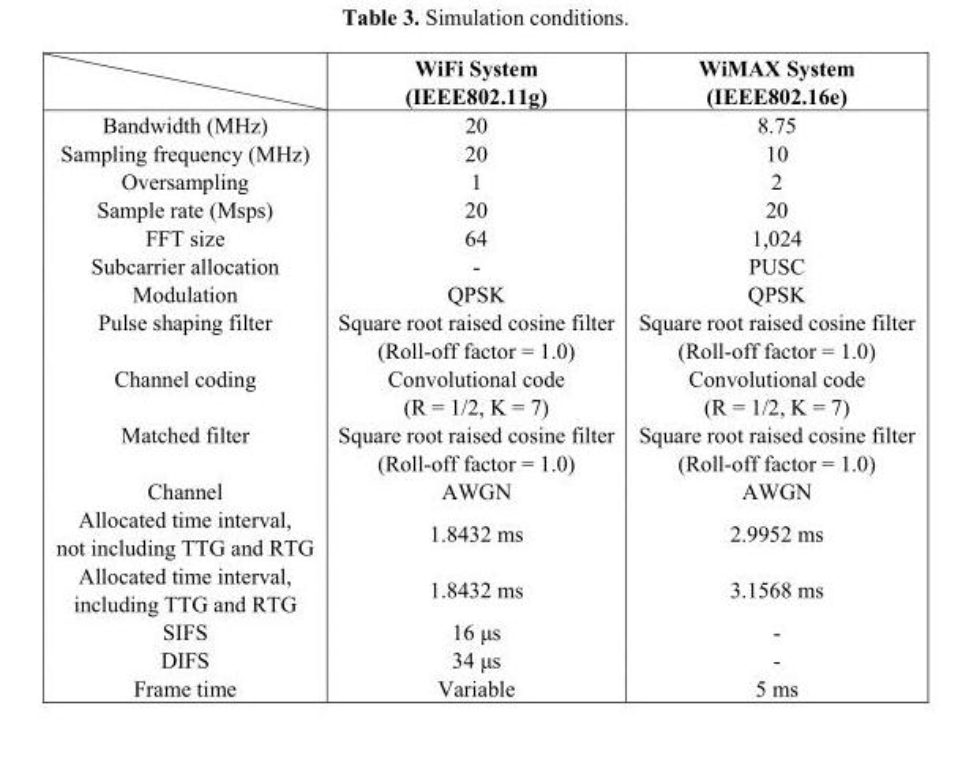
<table><thead><tr><td></td><td>WiFi System (IEEE802.11g)</td><td>WiMAX System (IEEE802.16e)</td></tr></thead><tbody><tr><td>Bandwidth (MHz)</td><td>20</td><td>8.75</td></tr><tr><td>Sampling frequency (MHz)</td><td>20</td><td>10</td></tr><tr><td>Oversampling</td><td>1</td><td>2</td></tr><tr><td>Sample rate (Msps)</td><td>20</td><td>20</td></tr><tr><td>FFT size</td><td>64</td><td>1,024</td></tr><tr><td>Subcarrier allocation</td><td>-</td><td>PUSC</td></tr><tr><td>Modulation</td><td>QPSK</td><td>QPSK</td></tr><tr><td>Pulse shaping filter</td><td>Square root raised cosine filter (Roll-off factor = 1.0)</td><td>Square root raised cosine filter (Roll-off factor = 1.0)</td></tr><tr><td>Channel coding</td><td>Convolutional code (R = 1/2, K = 7)</td><td>Convolutional code (R = 1/2, K = 7)</td></tr><tr><td>Matched filter</td><td>Square root raised cosine filter (Roll-off factor = 1.0)</td><td>Square root raised cosine filter (Roll-off factor = 1.0)</td></tr><tr><td>Channel</td><td>AWGN</td><td>AWGN</td></tr><tr><td>Allocated time interval, not including TTG and RTG</td><td>1.8432 ms</td><td>2.9952 ms</td></tr><tr><td>Allocated time interval, including TTG and RTG</td><td>1.8432 ms</td><td>3.1568 ms</td></tr><tr><td>SIFS</td><td>16 μs</td><td>-</td></tr><tr><td>DIFS</td><td>34 μs</td><td>-</td></tr><tr><td>Frame time</td><td>Variable</td><td>5 ms</td></tr></tbody></table>